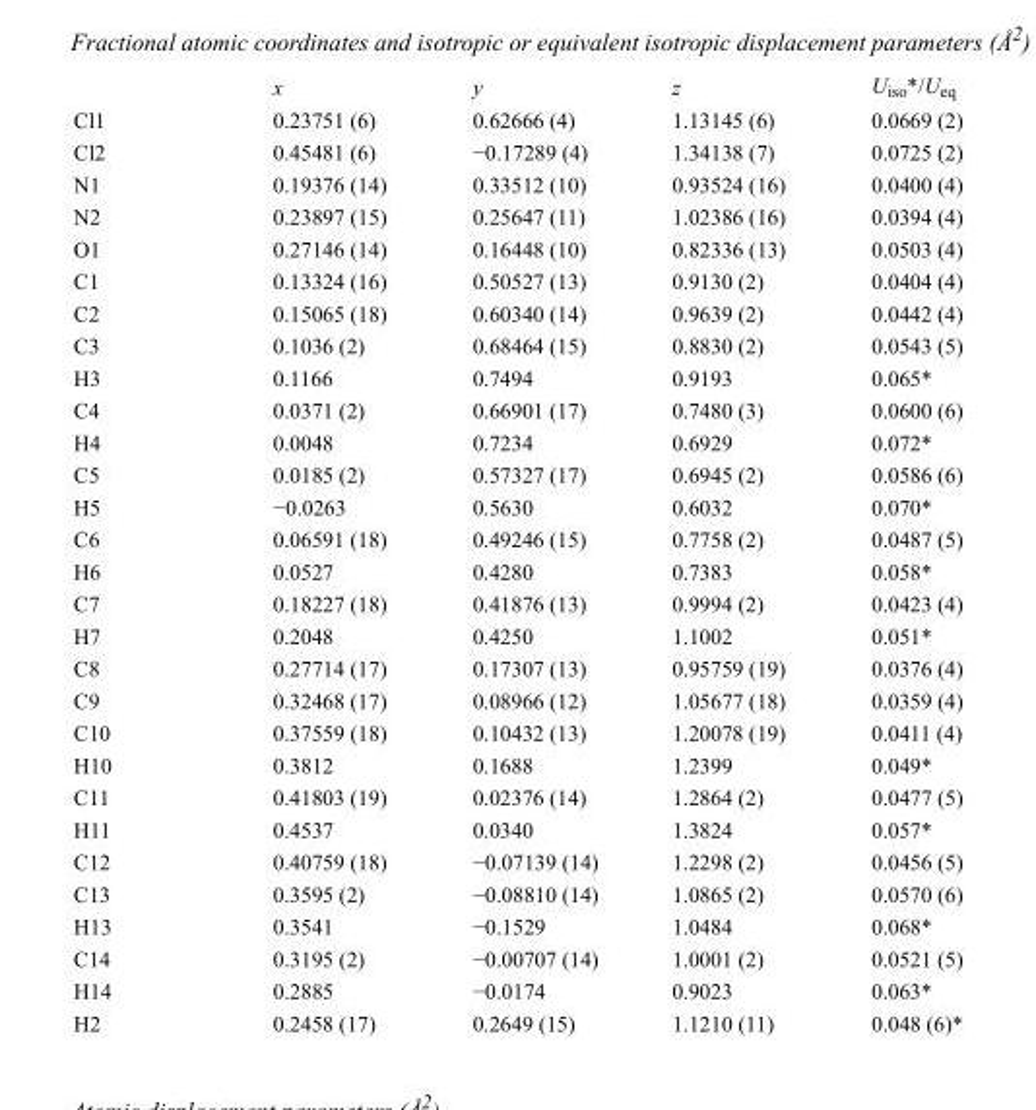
<table><thead><tr><td></td><td>x</td><td>y</td><td>z</td><td>U<sub>iso</sub>*/U<sub>eq</sub></td></tr></thead><tbody><tr><td>Cl1</td><td>0.23751 (6)</td><td>0.62666 (4)</td><td>1.13145 (6)</td><td>0.0669 (2)</td></tr><tr><td>Cl2</td><td>0.45481 (6)</td><td>−0.17289 (4)</td><td>1.34138 (7)</td><td>0.0725 (2)</td></tr><tr><td>N1</td><td>0.19376 (14)</td><td>0.33512 (10)</td><td>0.93524 (16)</td><td>0.0400 (4)</td></tr><tr><td>N2</td><td>0.23897 (15)</td><td>0.25647 (11)</td><td>1.02386 (16)</td><td>0.0394 (4)</td></tr><tr><td>O1</td><td>0.27146 (14)</td><td>0.16448 (10)</td><td>0.82336 (13)</td><td>0.0503 (4)</td></tr><tr><td>C1</td><td>0.13324 (16)</td><td>0.50527 (13)</td><td>0.9130 (2)</td><td>0.0404 (4)</td></tr><tr><td>C2</td><td>0.15065 (18)</td><td>0.60340 (14)</td><td>0.9639 (2)</td><td>0.0442 (4)</td></tr><tr><td>C3</td><td>0.1036 (2)</td><td>0.68464 (15)</td><td>0.8830 (2)</td><td>0.0543 (5)</td></tr><tr><td>H3</td><td>0.1166</td><td>0.7494</td><td>0.9193</td><td>0.065*</td></tr><tr><td>C4</td><td>0.0371 (2)</td><td>0.66901 (17)</td><td>0.7480 (3)</td><td>0.0600 (6)</td></tr><tr><td>H4</td><td>0.0048</td><td>0.7234</td><td>0.6929</td><td>0.072*</td></tr><tr><td>C5</td><td>0.0185 (2)</td><td>0.57327 (17)</td><td>0.6945 (2)</td><td>0.0586 (6)</td></tr><tr><td>H5</td><td>−0.0263</td><td>0.5630</td><td>0.6032</td><td>0.070*</td></tr><tr><td>C6</td><td>0.06591 (18)</td><td>0.49246 (15)</td><td>0.7758 (2)</td><td>0.0487 (5)</td></tr><tr><td>H6</td><td>0.0527</td><td>0.4280</td><td>0.7383</td><td>0.058*</td></tr><tr><td>C7</td><td>0.18227 (18)</td><td>0.41876 (13)</td><td>0.9994 (2)</td><td>0.0423 (4)</td></tr><tr><td>H7</td><td>0.2048</td><td>0.4250</td><td>1.1002</td><td>0.051*</td></tr><tr><td>C8</td><td>0.27714 (17)</td><td>0.17307 (13)</td><td>0.95759 (19)</td><td>0.0376 (4)</td></tr><tr><td>C9</td><td>0.32468 (17)</td><td>0.08966 (12)</td><td>1.05677 (18)</td><td>0.0359 (4)</td></tr><tr><td>C10</td><td>0.37559 (18)</td><td>0.10432 (13)</td><td>1.20078 (19)</td><td>0.0411 (4)</td></tr><tr><td>H10</td><td>0.3812</td><td>0.1688</td><td>1.2399</td><td>0.049*</td></tr><tr><td>C11</td><td>0.41803 (19)</td><td>0.02376 (14)</td><td>1.2864 (2)</td><td>0.0477 (5)</td></tr><tr><td>H11</td><td>0.4537</td><td>0.0340</td><td>1.3824</td><td>0.057*</td></tr><tr><td>C12</td><td>0.40759 (18)</td><td>−0.07139 (14)</td><td>1.2298 (2)</td><td>0.0456 (5)</td></tr><tr><td>C13</td><td>0.3595 (2)</td><td>−0.08810 (14)</td><td>1.0865 (2)</td><td>0.0570 (6)</td></tr><tr><td>H13</td><td>0.3541</td><td>−0.1529</td><td>1.0484</td><td>0.068*</td></tr><tr><td>C14</td><td>0.3195 (2)</td><td>−0.00707 (14)</td><td>1.0001 (2)</td><td>0.0521 (5)</td></tr><tr><td>H14</td><td>0.2885</td><td>−0.0174</td><td>0.9023</td><td>0.063*</td></tr><tr><td>H2</td><td>0.2458 (17)</td><td>0.2649 (15)</td><td>1.1210 (11)</td><td>0.048 (6)*</td></tr></tbody></table>